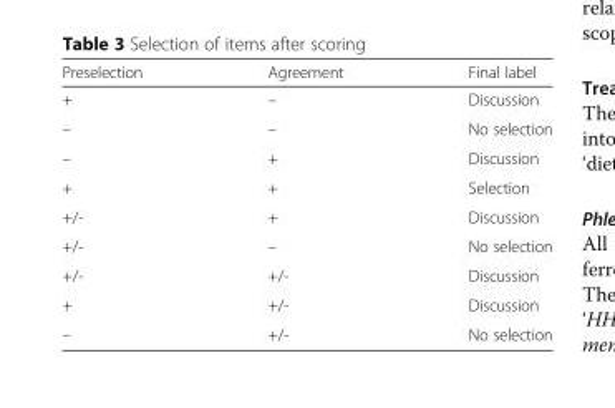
<table><thead><tr><td>Preselection</td><td>Agreement</td><td>Final label</td></tr></thead><tbody><tr><td>+</td><td>–</td><td>Discussion</td></tr><tr><td>–</td><td>–</td><td>No selection</td></tr><tr><td>–</td><td>+</td><td>Discussion</td></tr><tr><td>+</td><td>+</td><td>Selection</td></tr><tr><td>+/-</td><td>+</td><td>Discussion</td></tr><tr><td>+/-</td><td>–</td><td>No selection</td></tr><tr><td>+/-</td><td>+/-</td><td>Discussion</td></tr><tr><td>+</td><td>+/-</td><td>Discussion</td></tr><tr><td>–</td><td>+/-</td><td>No selection</td></tr></tbody></table>